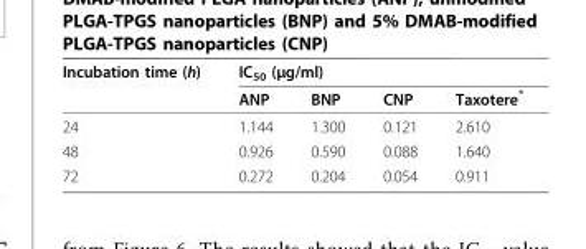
<table><thead><tr><td rowspan="2">Incubation time (h)</td><td colspan="4">IC<sub>50</sub> (μg/ml)</td></tr><tr><td>ANP</td><td>BNP</td><td>CNP</td><td>Taxotere<sup>®</sup></td></tr></thead><tbody><tr><td>24</td><td>1.144</td><td>1.300</td><td>0.121</td><td>2.610</td></tr><tr><td>48</td><td>0.926</td><td>0.590</td><td>0.088</td><td>1.640</td></tr><tr><td>72</td><td>0.272</td><td>0.204</td><td>0.054</td><td>0.911</td></tr></tbody></table>